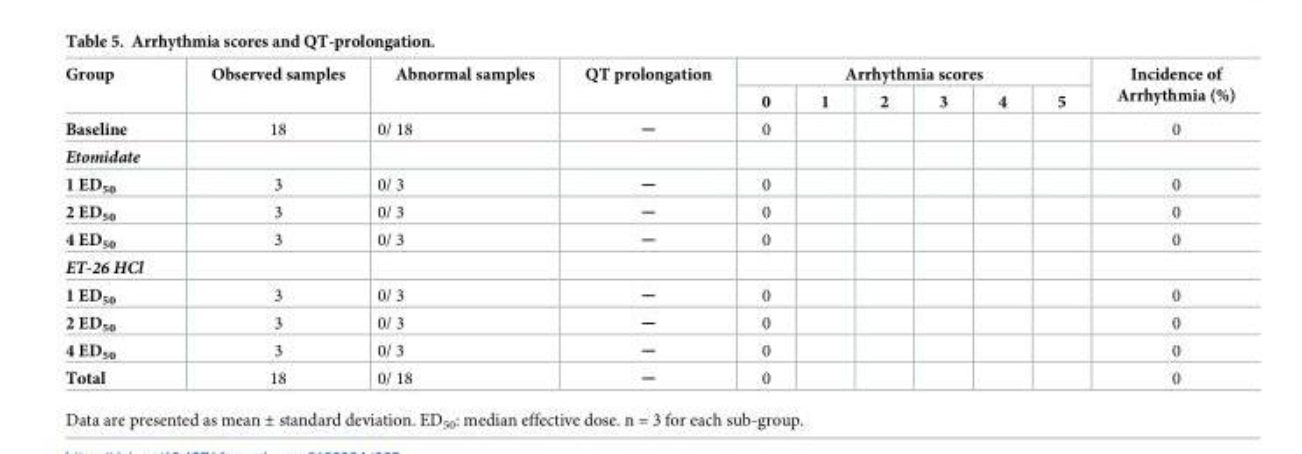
<table><thead><tr><td rowspan="2">Group</td><td rowspan="2">Observed samples</td><td rowspan="2">Abnormal samples</td><td rowspan="2">QT prolongation</td><td colspan="6">Arrhythmia scores</td><td rowspan="2">Incidence of Arrhythmia (%)</td></tr><tr><td>0</td><td>1</td><td>2</td><td>3</td><td>4</td><td>5</td></tr></thead><tbody><tr><td>Baseline</td><td>18</td><td>0/ 18</td><td>─</td><td>0</td><td></td><td></td><td></td><td></td><td></td><td>0</td></tr><tr><td colspan="11">Etomidate</td></tr><tr><td>1 ED<sub>50</sub></td><td>3</td><td>0/ 3</td><td>─</td><td>0</td><td></td><td></td><td></td><td></td><td></td><td>0</td></tr><tr><td>2 ED<sub>50</sub></td><td>3</td><td>0/ 3</td><td>─</td><td>0</td><td></td><td></td><td></td><td></td><td></td><td>0</td></tr><tr><td>4 ED<sub>50</sub></td><td>3</td><td>0/ 3</td><td>─</td><td>0</td><td></td><td></td><td></td><td></td><td></td><td>0</td></tr><tr><td colspan="11">ET-26 HCl</td></tr><tr><td>1 ED<sub>50</sub></td><td>3</td><td>0/ 3</td><td>─</td><td>0</td><td></td><td></td><td></td><td></td><td></td><td>0</td></tr><tr><td>2 ED<sub>50</sub></td><td>3</td><td>0/ 3</td><td>─</td><td>0</td><td></td><td></td><td></td><td></td><td></td><td>0</td></tr><tr><td>4 ED<sub>50</sub></td><td>3</td><td>0/ 3</td><td>─</td><td>0</td><td></td><td></td><td></td><td></td><td></td><td>0</td></tr><tr><td>Total</td><td>18</td><td>0/ 18</td><td>─</td><td>0</td><td></td><td></td><td></td><td></td><td></td><td>0</td></tr></tbody></table>